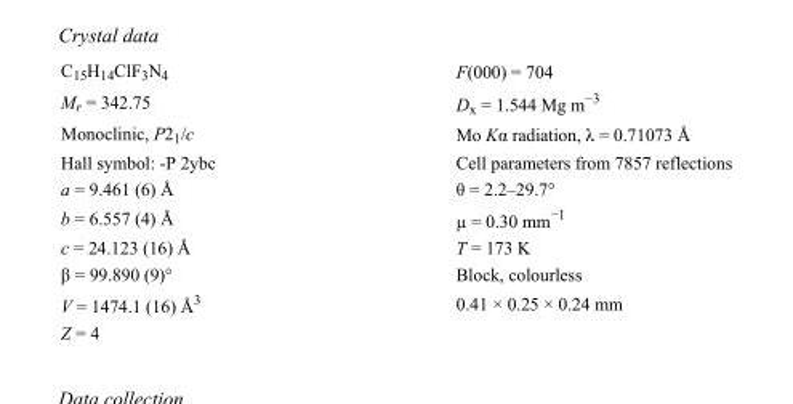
<table><tbody><tr><td>C<sub>15</sub>H<sub>14</sub>ClF<sub>3</sub>N<sub>4</sub></td><td>F(000) = 704</td></tr><tr><td>M<sub>r</sub> = 342.75</td><td>D<sub>x</sub> = 1.544 Mg m<sup>−3</sup></td></tr><tr><td>Monoclinic, P2<sub>1</sub>/c</td><td>Mo Kα radiation, λ = 0.71073 Å</td></tr><tr><td>Hall symbol: -P 2ybc</td><td>Cell parameters from 7857 reflections</td></tr><tr><td>a = 9.461 (6) Å</td><td>θ = 2.2–29.7°</td></tr><tr><td>b = 6.557 (4) Å</td><td>µ = 0.30 mm<sup>−1</sup></td></tr><tr><td>c = 24.123 (16) Å</td><td>T = 173 K</td></tr><tr><td>β = 99.890 (9)°</td><td>Block, colourless</td></tr><tr><td>V = 1474.1 (16) Å<sup>3</sup></td><td>0.41 × 0.25 × 0.24 mm</td></tr><tr><td>Z = 4</td><td></td></tr></tbody></table>